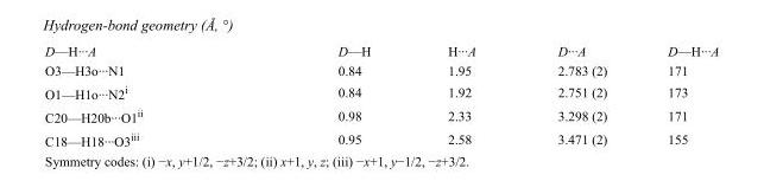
<table><tbody><tr><td>D—H···A</td><td>D—H</td><td>H···A</td><td>D···A</td><td>D—H···A</td></tr><tr><td>O3—H3o···N1</td><td>0.84</td><td>1.95</td><td>2.783 (2)</td><td>171</td></tr><tr><td>O1—H1o···N2<sup>i</sup></td><td>0.84</td><td>1.92</td><td>2.751 (2)</td><td>173</td></tr><tr><td>C20—H20b···O1<sup>ii</sup></td><td>0.98</td><td>2.33</td><td>3.298 (2)</td><td>171</td></tr><tr><td>C18—H18···O3<sup>iii</sup></td><td>0.95</td><td>2.58</td><td>3.471 (2)</td><td>155</td></tr></tbody></table>